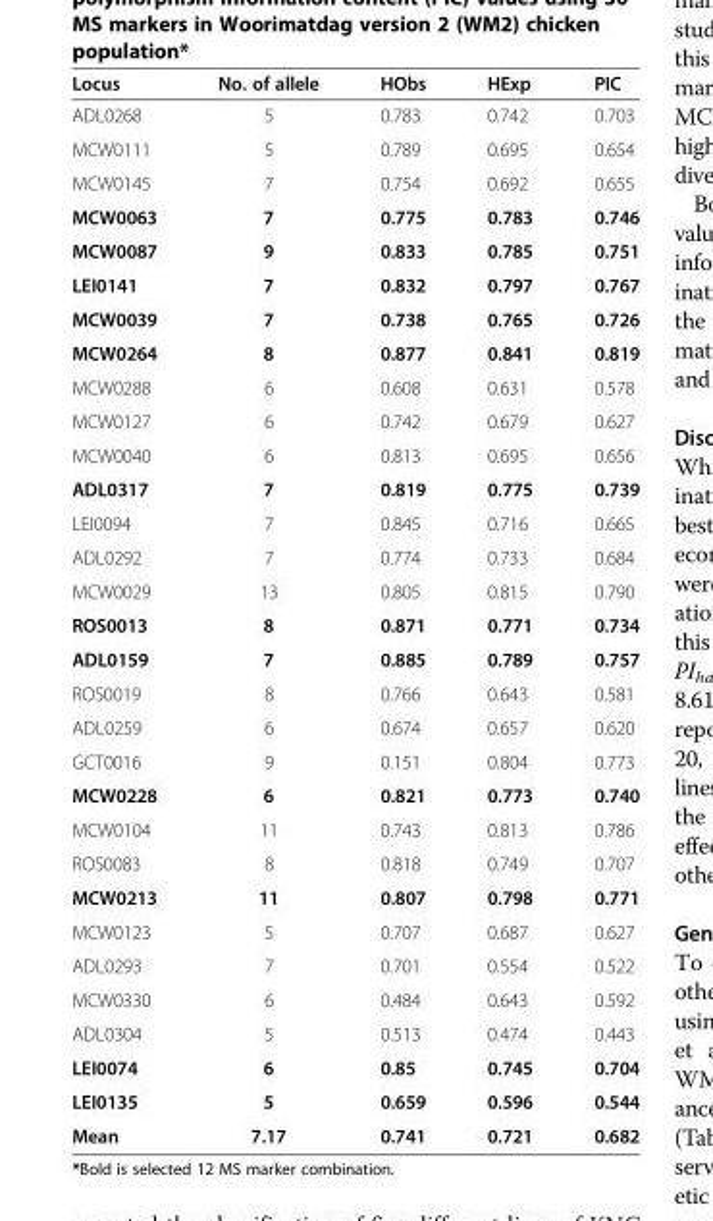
<table><thead><tr><td>Locus</td><td>No. of allele</td><td>HObs</td><td>HExp</td><td>PIC</td></tr></thead><tbody><tr><td>ADL0268</td><td>5</td><td>0.783</td><td>0.742</td><td>0.703</td></tr><tr><td>MCW0111</td><td>5</td><td>0.789</td><td>0.695</td><td>0.654</td></tr><tr><td>MCW0145</td><td>7</td><td>0.754</td><td>0.692</td><td>0.655</td></tr><tr><td>MCW0063</td><td>7</td><td>0.775</td><td>0.783</td><td>0.746</td></tr><tr><td>MCW0087</td><td>9</td><td>0.833</td><td>0.785</td><td>0.751</td></tr><tr><td>LEI0141</td><td>7</td><td>0.832</td><td>0.797</td><td>0.767</td></tr><tr><td>MCW0039</td><td>7</td><td>0.738</td><td>0.765</td><td>0.726</td></tr><tr><td>MCW0264</td><td>8</td><td>0.877</td><td>0.841</td><td>0.819</td></tr><tr><td>MCW0288</td><td>6</td><td>0.608</td><td>0.631</td><td>0.578</td></tr><tr><td>MCW0127</td><td>6</td><td>0.742</td><td>0.679</td><td>0.627</td></tr><tr><td>MCW0040</td><td>6</td><td>0.813</td><td>0.695</td><td>0.656</td></tr><tr><td>ADL0317</td><td>7</td><td>0.819</td><td>0.775</td><td>0.739</td></tr><tr><td>LEI0094</td><td>7</td><td>0.845</td><td>0.716</td><td>0.665</td></tr><tr><td>ADL0292</td><td>7</td><td>0.774</td><td>0.733</td><td>0.684</td></tr><tr><td>MCW0029</td><td>13</td><td>0.805</td><td>0.815</td><td>0.790</td></tr><tr><td>ROS0013</td><td>8</td><td>0.871</td><td>0.771</td><td>0.734</td></tr><tr><td>ADL0159</td><td>7</td><td>0.885</td><td>0.789</td><td>0.757</td></tr><tr><td>ROS0019</td><td>8</td><td>0.766</td><td>0.643</td><td>0.581</td></tr><tr><td>ADL0259</td><td>6</td><td>0.674</td><td>0.657</td><td>0.620</td></tr><tr><td>GCT0016</td><td>9</td><td>0.151</td><td>0.804</td><td>0.773</td></tr><tr><td>MCW0228</td><td>6</td><td>0.821</td><td>0.773</td><td>0.740</td></tr><tr><td>MCW0104</td><td>11</td><td>0.743</td><td>0.813</td><td>0.786</td></tr><tr><td>ROS0083</td><td>8</td><td>0.818</td><td>0.749</td><td>0.707</td></tr><tr><td>MCW0213</td><td>11</td><td>0.807</td><td>0.798</td><td>0.771</td></tr><tr><td>MCW0123</td><td>5</td><td>0.707</td><td>0.687</td><td>0.627</td></tr><tr><td>ADL0293</td><td>7</td><td>0.701</td><td>0.554</td><td>0.522</td></tr><tr><td>MCW0330</td><td>6</td><td>0.484</td><td>0.643</td><td>0.592</td></tr><tr><td>ADL0304</td><td>5</td><td>0.513</td><td>0.474</td><td>0.443</td></tr><tr><td>LEI0074</td><td>6</td><td>0.85</td><td>0.745</td><td>0.704</td></tr><tr><td>LEI0135</td><td>5</td><td>0.659</td><td>0.596</td><td>0.544</td></tr><tr><td>Mean</td><td>7.17</td><td>0.741</td><td>0.721</td><td>0.682</td></tr></tbody></table>